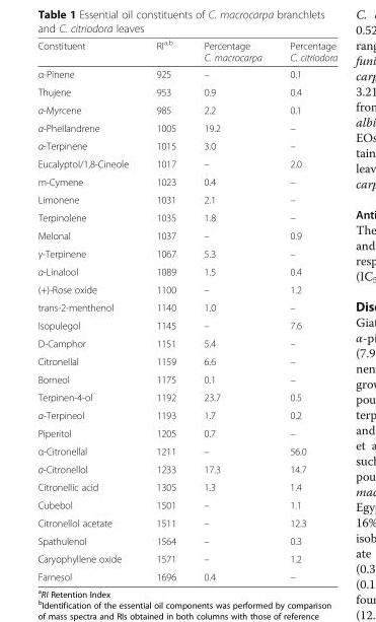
<table><thead><tr><td>Constituent</td><td>RI<sup>a,b</sup></td><td>Percentage C. macrocarpa</td><td>Percentage C. citriodora</td></tr></thead><tbody><tr><td>α-Pinene</td><td>925</td><td>–</td><td>0.1</td></tr><tr><td>Thujene</td><td>953</td><td>0.9</td><td>0.4</td></tr><tr><td>α-Myrcene</td><td>985</td><td>2.2</td><td>0.1</td></tr><tr><td>α-Phellandrene</td><td>1005</td><td>19.2</td><td>–</td></tr><tr><td>α-Terpinene</td><td>1015</td><td>3.0</td><td>–</td></tr><tr><td>Eucalyptol/1,8-Cineole</td><td>1017</td><td>–</td><td>2.0</td></tr><tr><td>m-Cymene</td><td>1023</td><td>0.4</td><td>–</td></tr><tr><td>Limonene</td><td>1031</td><td>2.1</td><td>–</td></tr><tr><td>Terpinolene</td><td>1035</td><td>1.8</td><td>–</td></tr><tr><td>Melonal</td><td>1037</td><td>–</td><td>0.9</td></tr><tr><td>γ-Terpinene</td><td>1067</td><td>5.3</td><td>–</td></tr><tr><td>α-Linalool</td><td>1089</td><td>1.5</td><td>0.4</td></tr><tr><td>(+)-Rose oxide</td><td>1100</td><td>–</td><td>1.2</td></tr><tr><td>trans-2-menthenol</td><td>1140</td><td>1.0</td><td>–</td></tr><tr><td>Isopulegol</td><td>1145</td><td>–</td><td>7.6</td></tr><tr><td>D-Camphor</td><td>1151</td><td>5.4</td><td>–</td></tr><tr><td>Citronellal</td><td>1159</td><td>6.6</td><td>–</td></tr><tr><td>Borneol</td><td>1175</td><td>0.1</td><td>–</td></tr><tr><td>Terpinen-4-ol</td><td>1192</td><td>23.7</td><td>0.5</td></tr><tr><td>α-Terpineol</td><td>1193</td><td>1.7</td><td>0.2</td></tr><tr><td>Piperitol</td><td>1205</td><td>0.7</td><td>–</td></tr><tr><td>α-Citronellal</td><td>1211</td><td>–</td><td>56.0</td></tr><tr><td>α-Citronellol</td><td>1233</td><td>17.3</td><td>14.7</td></tr><tr><td>Citronellic acid</td><td>1305</td><td>1.3</td><td>1.4</td></tr><tr><td>Cubebol</td><td>1501</td><td>–</td><td>1.1</td></tr><tr><td>Citronellol acetate</td><td>1511</td><td>–</td><td>12.3</td></tr><tr><td>Spathulenol</td><td>1564</td><td>–</td><td>0.3</td></tr><tr><td>Caryophyllene oxide</td><td>1571</td><td>–</td><td>1.2</td></tr><tr><td>Farnesol</td><td>1696</td><td>0.4</td><td>–</td></tr></tbody></table>